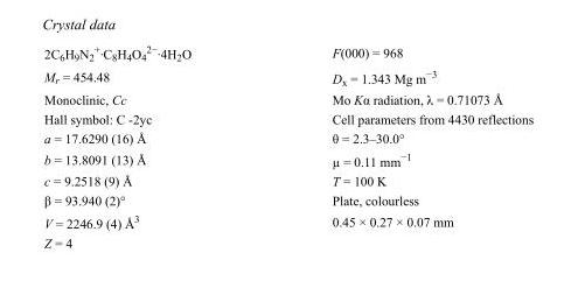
<table><tbody><tr><td>2C<sub>6</sub>H<sub>9</sub>N<sub>2</sub> <sup>+</sup>·C<sub>8</sub>H<sub>4</sub>O<sub>4</sub> <sup>2−</sup>·4H<sub>2</sub>O</td><td>F(000) = 968</td></tr><tr><td>M<sub>r</sub> = 454.48</td><td>D<sub>x</sub> = 1.343 Mg m<sup>−3</sup></td></tr><tr><td>Monoclinic, Cc</td><td>Mo Kα radiation, λ = 0.71073 Å</td></tr><tr><td>Hall symbol: C -2yc</td><td>Cell parameters from 4430 reflections</td></tr><tr><td>a = 17.6290 (16) Å</td><td>θ = 2.3–30.0°</td></tr><tr><td>b = 13.8091 (13) Å</td><td>µ = 0.11 mm<sup>−1</sup></td></tr><tr><td>c = 9.2518 (9) Å</td><td>T = 100 K</td></tr><tr><td>β = 93.940 (2)°</td><td>Plate, colourless</td></tr><tr><td>V = 2246.9 (4) Å<sup>3</sup></td><td>0.45 × 0.27 × 0.07 mm</td></tr><tr><td>Z = 4</td><td></td></tr></tbody></table>